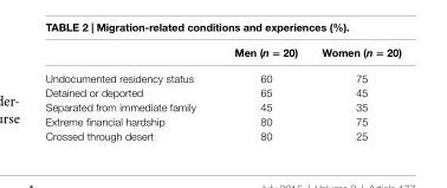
<table><thead><tr><td></td><td>Men (n = 20)</td><td>Women (n = 20)</td></tr></thead><tbody><tr><td>Undocumented residency status</td><td>60</td><td>75</td></tr><tr><td>Detained or deported</td><td>65</td><td>45</td></tr><tr><td>Separated from immediate family</td><td>45</td><td>35</td></tr><tr><td>Extreme financial hardship</td><td>80</td><td>75</td></tr><tr><td>Crossed through desert</td><td>80</td><td>25</td></tr></tbody></table>